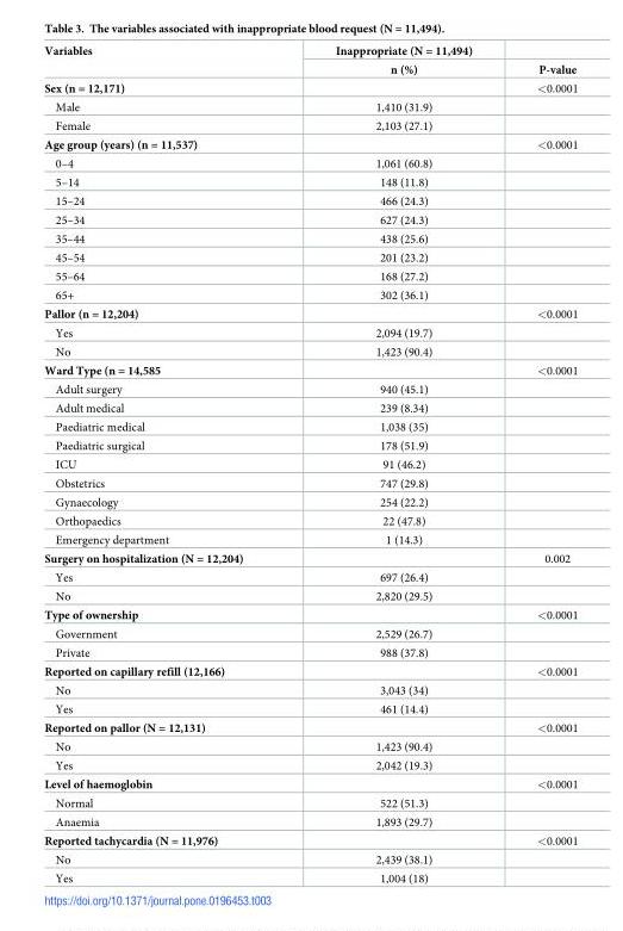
<table><thead><tr><td rowspan="2">Variables</td><td rowspan="2">Inappropriate (N = 11,494) n (%)</td><td rowspan="2">P-value</td></tr><tr></tr></thead><tbody><tr><td>Sex (n = 12,171)</td><td></td><td>&lt;0.0001</td></tr><tr><td>Male</td><td>1,410 (31.9)</td><td></td></tr><tr><td>Female</td><td>2,103 (27.1)</td><td></td></tr><tr><td>Age group (years) (n = 11,537)</td><td></td><td>&lt;0.0001</td></tr><tr><td>0–4</td><td>1,061 (60.8)</td><td></td></tr><tr><td>5–14</td><td>148 (11.8)</td><td></td></tr><tr><td>15–24</td><td>466 (24.3)</td><td></td></tr><tr><td>25–34</td><td>627 (24.3)</td><td></td></tr><tr><td>35–44</td><td>438 (25.6)</td><td></td></tr><tr><td>45–54</td><td>201 (23.2)</td><td></td></tr><tr><td>55–64</td><td>168 (27.2)</td><td></td></tr><tr><td>65+</td><td>302 (36.1)</td><td></td></tr><tr><td>Pallor (n = 12,204)</td><td></td><td>&lt;0.0001</td></tr><tr><td>Yes</td><td>2,094 (19.7)</td><td></td></tr><tr><td>No</td><td>1,423 (90.4)</td><td></td></tr><tr><td>Ward Type (n = 14,585</td><td></td><td>&lt;0.0001</td></tr><tr><td>Adult surgery</td><td>940 (45.1)</td><td></td></tr><tr><td>Adult medical</td><td>239 (8.34)</td><td></td></tr><tr><td>Paediatric medical</td><td>1,038 (35)</td><td></td></tr><tr><td>Paediatric surgical</td><td>178 (51.9)</td><td></td></tr><tr><td>ICU</td><td>91 (46.2)</td><td></td></tr><tr><td>Obstetrics</td><td>747 (29.8)</td><td></td></tr><tr><td>Gynaecology</td><td>254 (22.2)</td><td></td></tr><tr><td>Orthopaedics</td><td>22 (47.8)</td><td></td></tr><tr><td>Emergency department</td><td>1 (14.3)</td><td></td></tr><tr><td>Surgery on hospitalization (N = 12,204)</td><td></td><td>0.002</td></tr><tr><td>Yes</td><td>697 (26.4)</td><td></td></tr><tr><td>No</td><td>2,820 (29.5)</td><td></td></tr><tr><td>Type of ownership</td><td></td><td>&lt;0.0001</td></tr><tr><td>Government</td><td>2,529 (26.7)</td><td></td></tr><tr><td>Private</td><td>988 (37.8)</td><td></td></tr><tr><td>Reported on capillary refill (12,166)</td><td></td><td>&lt;0.0001</td></tr><tr><td>No</td><td>3,043 (34)</td><td></td></tr><tr><td>Yes</td><td>461 (14.4)</td><td></td></tr><tr><td>Reported on pallor (N = 12,131)</td><td></td><td>&lt;0.0001</td></tr><tr><td>No</td><td>1,423 (90.4)</td><td></td></tr><tr><td>Yes</td><td>2,042 (19.3)</td><td></td></tr><tr><td>Level of haemoglobin</td><td></td><td>&lt;0.0001</td></tr><tr><td>Normal</td><td>522 (51.3)</td><td></td></tr><tr><td>Anaemia</td><td>1,893 (29.7)</td><td></td></tr><tr><td>Reported tachycardia (N = 11,976)</td><td></td><td>&lt;0.0001</td></tr><tr><td>No</td><td>2,439 (38.1)</td><td></td></tr><tr><td>Yes</td><td>1,004 (18)</td><td></td></tr></tbody></table>